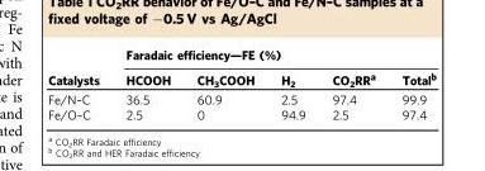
<table><thead><tr><td rowspan="2">Catalysts</td><td colspan="5">Faradaic efficiency—FE (%)</td></tr><tr><td>HCOOH</td><td>CH<sub>3</sub>COOH</td><td>H<sub>2</sub></td><td>CO<sub>2</sub>RR<sup>a</sup></td><td>Total<sup>b</sup></td></tr></thead><tbody><tr><td>Fe/N–C</td><td>36.5</td><td>60.9</td><td>2.5</td><td>97.4</td><td>99.9</td></tr><tr><td>Fe/O–C</td><td>2.5</td><td>0</td><td>94.9</td><td>2.5</td><td>97.4</td></tr></tbody></table>